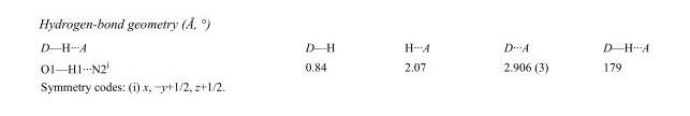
<table><tbody><tr><td>D—H···A</td><td>D—H</td><td>H···A</td><td>D···A</td><td>D—H···A</td></tr><tr><td>O1—H1···N2<sup>i</sup></td><td>0.84</td><td>2.07</td><td>2.906 (3)</td><td>179</td></tr></tbody></table>